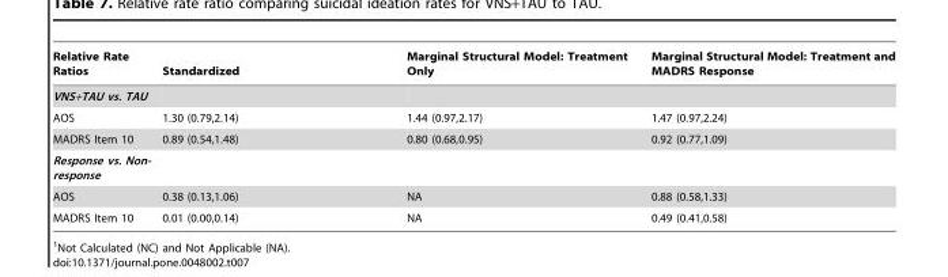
<table><thead><tr><td>Relative Rate Ratios</td><td>Standardized</td><td>Marginal Structural Model: Treatment Only</td><td>Marginal Structural Model: Treatment and MADRS Response</td></tr></thead><tbody><tr><td colspan="4">VNS+TAU vs. TAU</td></tr><tr><td>AOS</td><td>1.30 (0.79,2.14)</td><td>1.44 (0.97,2.17)</td><td>1.47 (0.97,2.24)</td></tr><tr><td>MADRS Item 10</td><td>0.89 (0.54,1.48)</td><td>0.80 (0.68,0.95)</td><td>0.92 (0.77,1.09)</td></tr><tr><td colspan="4">Response vs. Non- response</td></tr><tr><td>AOS</td><td>0.38 (0.13,1.06)</td><td>NA</td><td>0.88 (0.58,1.33)</td></tr><tr><td>MADRS Item 10</td><td>0.01 (0.00,0.14)</td><td>NA</td><td>0.49 (0.41,0.58)</td></tr></tbody></table>